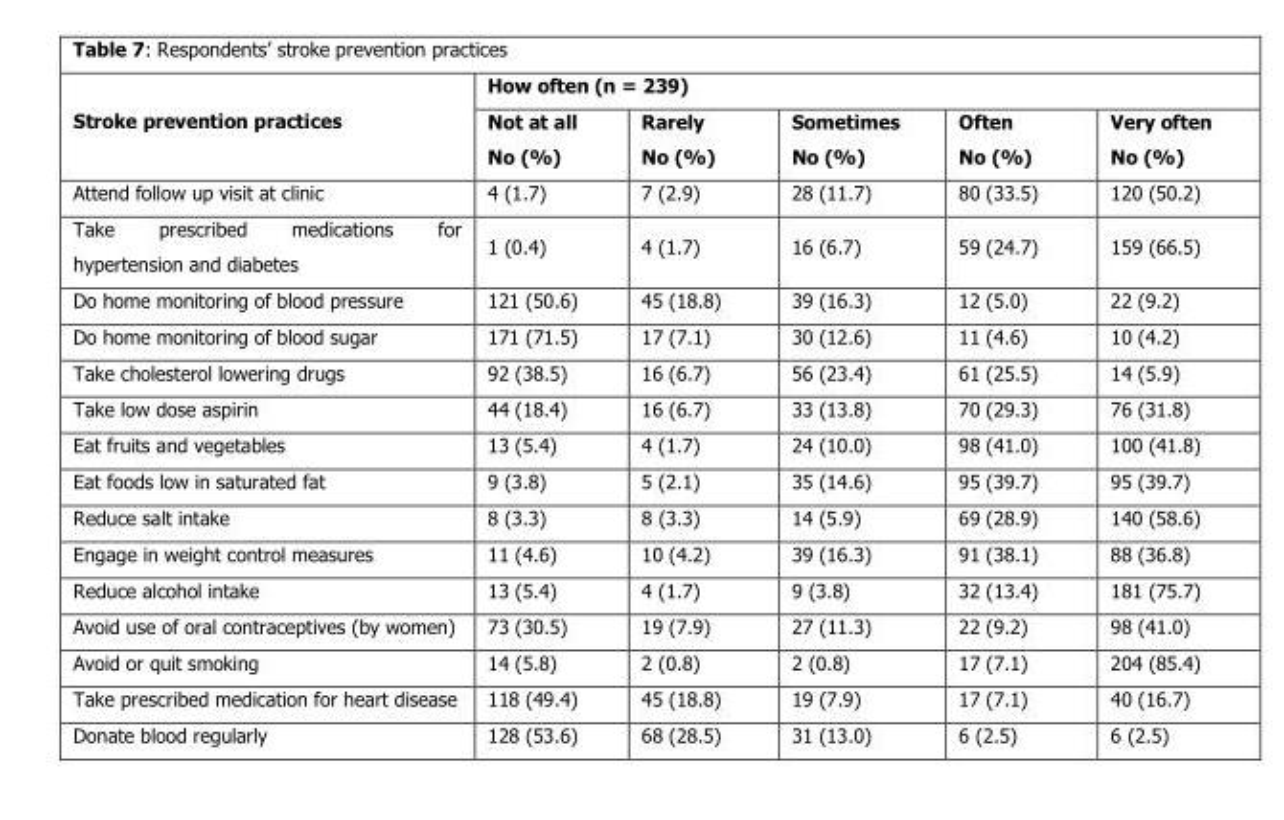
<table><thead><tr><td rowspan="2">Stroke prevention practices</td><td colspan="5">How often (n = 239)</td></tr><tr><td>Not at all No (%)</td><td>Rarely No (%)</td><td>Sometimes No (%)</td><td>Often No (%)</td><td>Very often No (%)</td></tr></thead><tbody><tr><td>Attend follow up visit at clinic</td><td>4 (1.7)</td><td>7 (2.9)</td><td>28 (11.7)</td><td>80 (33.5)</td><td>120 (50.2)</td></tr><tr><td>Take prescribed medications for hypertension and diabetes</td><td>1 (0.4)</td><td>4 (1.7)</td><td>16 (6.7)</td><td>59 (24.7)</td><td>159 (66.5)</td></tr><tr><td>Do home monitoring of blood pressure</td><td>121 (50.6)</td><td>45 (18.8)</td><td>39 (16.3)</td><td>12 (5.0)</td><td>22 (9.2)</td></tr><tr><td>Do home monitoring of blood sugar</td><td>171 (71.5)</td><td>17 (7.1)</td><td>30 (12.6)</td><td>11 (4.6)</td><td>10 (4.2)</td></tr><tr><td>Take cholesterol lowering drugs</td><td>92 (38.5)</td><td>16 (6.7)</td><td>56 (23.4)</td><td>61 (25.5)</td><td>14 (5.9)</td></tr><tr><td>Take low dose aspirin</td><td>44 (18.4)</td><td>16 (6.7)</td><td>33 (13.8)</td><td>70 (29.3)</td><td>76 (31.8)</td></tr><tr><td>Eat fruits and vegetables</td><td>13 (5.4)</td><td>4 (1.7)</td><td>24 (10.0)</td><td>98 (41.0)</td><td>100 (41.8)</td></tr><tr><td>Eat foods low in saturated fat</td><td>9 (3.8)</td><td>5 (2.1)</td><td>35 (14.6)</td><td>95 (39.7)</td><td>95 (39.7)</td></tr><tr><td>Reduce salt intake</td><td>8 (3.3)</td><td>8 (3.3)</td><td>14 (5.9)</td><td>69 (28.9)</td><td>140 (58.6)</td></tr><tr><td>Engage in weight control measures</td><td>11 (4.6)</td><td>10 (4.2)</td><td>39 (16.3)</td><td>91 (38.1)</td><td>88 (36.8)</td></tr><tr><td>Reduce alcohol intake</td><td>13 (5.4)</td><td>4 (1.7)</td><td>9 (3.8)</td><td>32 (13.4)</td><td>181 (75.7)</td></tr><tr><td>Avoid use of oral contraceptives (by women)</td><td>73 (30.5)</td><td>19 (7.9)</td><td>27 (11.3)</td><td>22 (9.2)</td><td>98 (41.0)</td></tr><tr><td>Avoid or quit smoking</td><td>14 (5.8)</td><td>2 (0.8)</td><td>2 (0.8)</td><td>17 (7.1)</td><td>204 (85.4)</td></tr><tr><td>Take prescribed medication for heart disease</td><td>118 (49.4)</td><td>45 (18.8)</td><td>19 (7.9)</td><td>17 (7.1)</td><td>40 (16.7)</td></tr><tr><td>Donate blood regularly</td><td>128 (53.6)</td><td>68 (28.5)</td><td>31 (13.0)</td><td>6 (2.5)</td><td>6 (2.5)</td></tr></tbody></table>